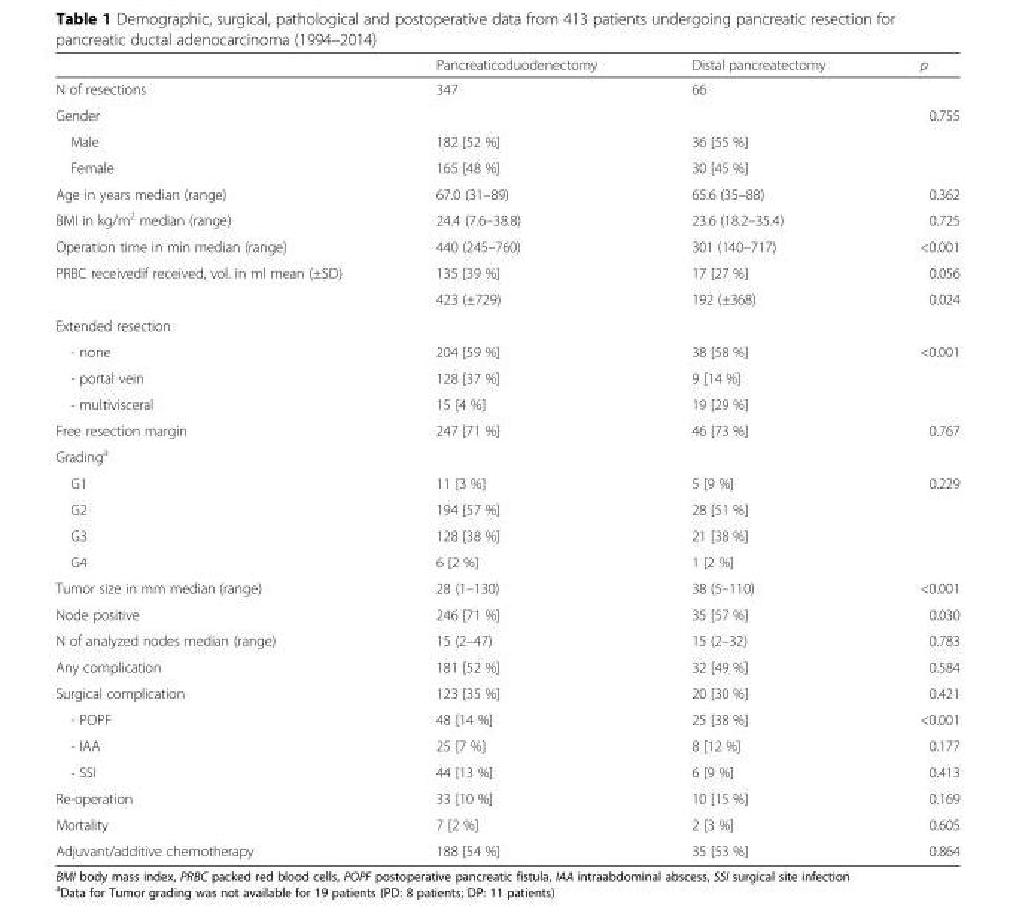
<table><thead><tr><td></td><td>Pancreaticoduodenectomy</td><td>Distal pancreatectomy</td><td>p</td></tr></thead><tbody><tr><td>N of resections</td><td>347</td><td>66</td><td></td></tr><tr><td colspan="3">Gender</td><td rowspan="3">0.755</td></tr><tr><td>Male</td><td>182 [52 %]</td><td>36 [55 %]</td></tr><tr><td>Female</td><td>165 [48 %]</td><td>30 [45 %]</td></tr><tr><td>Age in years median (range)</td><td>67.0 (31–89)</td><td>65.6 (35–88)</td><td>0.362</td></tr><tr><td>BMI in kg/m<sup>2</sup> median (range)</td><td>24.4 (7.6–38.8)</td><td>23.6 (18.2–35.4)</td><td>0.725</td></tr><tr><td>Operation time in min median (range)</td><td>440 (245–760)</td><td>301 (140–717)</td><td>&lt;0.001</td></tr><tr><td rowspan="2">PRBC receivedif received, vol. in ml mean (±SD)</td><td>135 [39 %]</td><td>17 [27 %]</td><td>0.056</td></tr><tr><td>423 (±729)</td><td>192 (±368)</td><td>0.024</td></tr><tr><td colspan="4">Extended resection</td></tr><tr><td>- none</td><td>204 [59 %]</td><td>38 [58 %]</td><td rowspan="3">&lt;0.001</td></tr><tr><td>- portal vein</td><td>128 [37 %]</td><td>9 [14 %]</td></tr><tr><td>- multivisceral</td><td>15 [4 %]</td><td>19 [29 %]</td></tr><tr><td>Free resection margin</td><td>247 [71 %]</td><td>46 [73 %]</td><td>0.767</td></tr><tr><td colspan="4">Grading<sup>a</sup></td></tr><tr><td>G1</td><td>11 [3 %]</td><td>5 [9 %]</td><td rowspan="4">0.229</td></tr><tr><td>G2</td><td>194 [57 %]</td><td>28 [51 %]</td></tr><tr><td>G3</td><td>128 [38 %]</td><td>21 [38 %]</td></tr><tr><td>G4</td><td>6 [2 %]</td><td>1 [2 %]</td></tr><tr><td>Tumor size in mm median (range)</td><td>28 (1–130)</td><td>38 (5–110)</td><td>&lt;0.001</td></tr><tr><td>Node positive</td><td>246 [71 %]</td><td>35 [57 %]</td><td>0.030</td></tr><tr><td>N of analyzed nodes median (range)</td><td>15 (2–47)</td><td>15 (2–32)</td><td>0.783</td></tr><tr><td>Any complication</td><td>181 [52 %]</td><td>32 [49 %]</td><td>0.584</td></tr><tr><td>Surgical complication</td><td>123 [35 %]</td><td>20 [30 %]</td><td>0.421</td></tr><tr><td>- POPF</td><td>48 [14 %]</td><td>25 [38 %]</td><td>&lt;0.001</td></tr><tr><td>- IAA</td><td>25 [7 %]</td><td>8 [12 %]</td><td>0.177</td></tr><tr><td>- SSI</td><td>44 [13 %]</td><td>6 [9 %]</td><td>0.413</td></tr><tr><td>Re-operation</td><td>33 [10 %]</td><td>10 [15 %]</td><td>0.169</td></tr><tr><td>Mortality</td><td>7 [2 %]</td><td>2 [3 %]</td><td>0.605</td></tr><tr><td>Adjuvant/additive chemotherapy</td><td>188 [54 %]</td><td>35 [53 %]</td><td>0.864</td></tr></tbody></table>